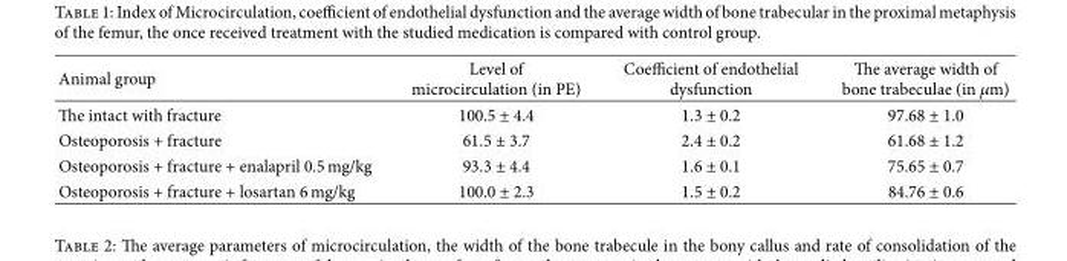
<table><thead><tr><td>Animal group</td><td>Level of microcirculation (in PE)</td><td>Coefficient of endothelial dysfunction</td><td>e average width of bone trabeculae (in 𝜇𝜇𝜇𝜇m)</td></tr></thead><tbody><tr><td>e intact with fracture</td><td>100.5 ± 4.4</td><td>1.3 ± 0.2</td><td>97.68 ± 1.0</td></tr><tr><td>Osteoporosis + fracture</td><td>61.5 ± 3.7</td><td>2.4 ± 0.2</td><td>61.68 ± 1.2</td></tr><tr><td>Osteoporosis + fracture + enalapril 0.5 mg/kg</td><td>93.3 ± 4.4</td><td>1.6 ± 0.1</td><td>75.65 ± 0.7</td></tr><tr><td>Osteoporosis + fracture + losartan 6 mg/kg</td><td>100.0 ± 2.3</td><td>1.5 ± 0.2</td><td>84.76 ± 0.6</td></tr></tbody></table>